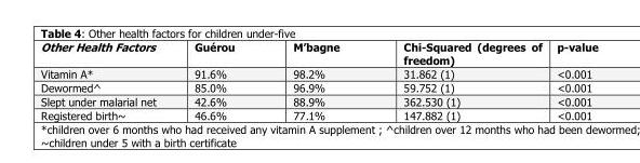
<table><thead><tr><td>Other Health Factors</td><td>Guérou</td><td>M’bagne</td><td>Chi-Squared (degrees of freedom)</td><td>p-value</td></tr></thead><tbody><tr><td>Vitamin A*</td><td>91.6%</td><td>98.2%</td><td>31.862 (1)</td><td>&lt;0.001</td></tr><tr><td>Dewormed^</td><td>85.0%</td><td>96.9%</td><td>59.752 (1)</td><td>&lt;0.001</td></tr><tr><td>Slept under malarial net</td><td>42.6%</td><td>88.9%</td><td>362.530 (1)</td><td>&lt;0.001</td></tr><tr><td>Registered birth~</td><td>46.6%</td><td>77.1%</td><td>147.882 (1)</td><td>&lt;0.001</td></tr></tbody></table>